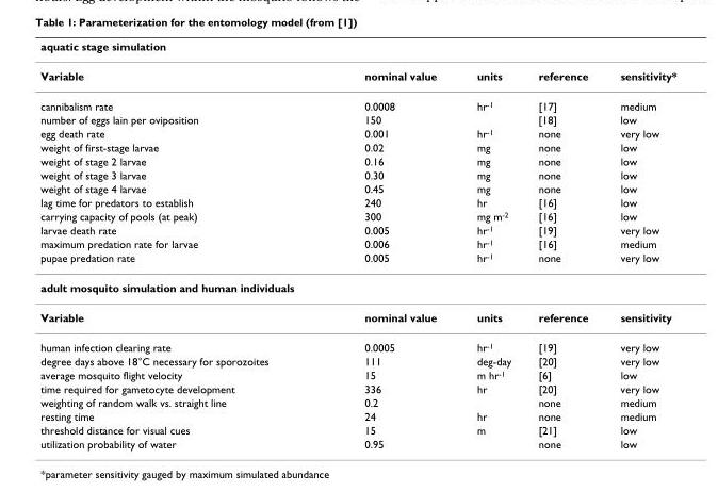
<table><thead><tr><td colspan="5">aquatic stage simulation</td></tr><tr><td>Variable</td><td>nominal value</td><td>units</td><td>reference</td><td>sensitivity*</td></tr></thead><tbody><tr><td>cannibalism rate</td><td>0.0008</td><td>hr<sup>-1</sup></td><td>[17]</td><td>medium</td></tr><tr><td>number of eggs lain per oviposition</td><td>150</td><td></td><td>[18]</td><td>low</td></tr><tr><td>egg death rate</td><td>0.001</td><td>hr<sup>-1</sup></td><td>none</td><td>very low</td></tr><tr><td>weight of first-stage larvae</td><td>0.02</td><td>mg</td><td>none</td><td>low</td></tr><tr><td>weight of stage 2 larvae</td><td>0.16</td><td>mg</td><td>none</td><td>low</td></tr><tr><td>weight of stage 3 larvae</td><td>0.30</td><td>mg</td><td>none</td><td>low</td></tr><tr><td>weight of stage 4 larvae</td><td>0.45</td><td>mg</td><td>none</td><td>low</td></tr><tr><td>lag time for predators to establish</td><td>240</td><td>hr</td><td>[16]</td><td>low</td></tr><tr><td>carrying capacity of pools (at peak)</td><td>300</td><td>mg m<sup>-2</sup></td><td>[16]</td><td>low</td></tr><tr><td>larvae death rate</td><td>0.005</td><td>hr<sup>-1</sup></td><td>[19]</td><td>very low</td></tr><tr><td>maximum predation rate for larvae</td><td>0.006</td><td>hr<sup>-1</sup></td><td>[16]</td><td>medium</td></tr><tr><td>pupae predation rate</td><td>0.005</td><td>hr<sup>-1</sup></td><td>none</td><td>very low</td></tr><tr><td colspan="5">adult mosquito simulation and human individuals</td></tr><tr><td>Variable</td><td>nominal value</td><td>units</td><td>reference</td><td>sensitivity</td></tr><tr><td>human infection clearing rate</td><td>0.0005</td><td>hr<sup>-1</sup></td><td>[19]</td><td>very low</td></tr><tr><td>degree days above 18°C necessary for sporozoites</td><td>111</td><td>deg-day</td><td>[20]</td><td>very low</td></tr><tr><td>average mosquito flight velocity</td><td>15</td><td>m hr<sup>-1</sup></td><td>[6]</td><td>low</td></tr><tr><td>time required for gametocyte development</td><td>336</td><td>hr</td><td>[20]</td><td>very low</td></tr><tr><td>weighting of random walk vs. straight line</td><td>0.2</td><td></td><td>none</td><td>medium</td></tr><tr><td>resting time</td><td>24</td><td>hr</td><td>none</td><td>medium</td></tr><tr><td>threshold distance for visual cues</td><td>15</td><td>m</td><td>[21]</td><td>low</td></tr><tr><td>utilization probability of water</td><td>0.95</td><td></td><td>none</td><td>low</td></tr></tbody></table>